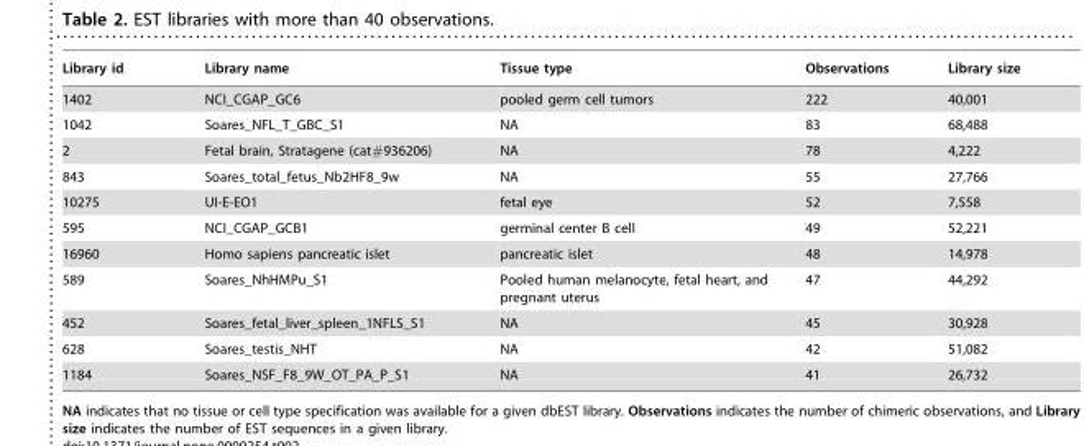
<table><thead><tr><td>Library id</td><td>Library name</td><td>Tissue type</td><td>Observations</td><td>Library size</td></tr></thead><tbody><tr><td>1402</td><td>NCI_CGAP_GC6</td><td>pooled germ cell tumors</td><td>222</td><td>40,001</td></tr><tr><td>1042</td><td>Soares_NFL_T_GBC_S1</td><td>NA</td><td>83</td><td>68,488</td></tr><tr><td>2</td><td>Fetal brain, Stratagene (cat#936206)</td><td>NA</td><td>78</td><td>4,222</td></tr><tr><td>843</td><td>Soares_total_fetus_Nb2HF8_9w</td><td>NA</td><td>55</td><td>27,766</td></tr><tr><td>10275</td><td>UI-E-EO1</td><td>fetal eye</td><td>52</td><td>7,558</td></tr><tr><td>595</td><td>NCI_CGAP_GCB1</td><td>germinal center B cell</td><td>49</td><td>52,221</td></tr><tr><td>16960</td><td>Homo sapiens pancreatic islet</td><td>pancreatic islet</td><td>48</td><td>14,978</td></tr><tr><td>589</td><td>Soares_NhHMPu_S1</td><td>Pooled human melanocyte, fetal heart, and pregnant uterus</td><td>47</td><td>44,292</td></tr><tr><td>452</td><td>Soares_fetal_liver_spleen_1NFLS_S1</td><td>NA</td><td>45</td><td>30,928</td></tr><tr><td>628</td><td>Soares_testis_NHT</td><td>NA</td><td>42</td><td>51,082</td></tr><tr><td>1184</td><td>Soares_NSF_F8_9W_OT_PA_P_S1</td><td>NA</td><td>41</td><td>26,732</td></tr></tbody></table>